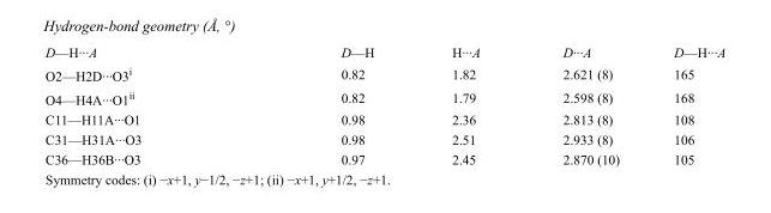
<table><tbody><tr><td>D—H···A</td><td>D—H</td><td>H···A</td><td>D···A</td><td>D—H···A</td></tr><tr><td>O2—H2D···O3<sup>i</sup></td><td>0.82</td><td>1.82</td><td>2.621 (8)</td><td>165</td></tr><tr><td>O4—H4A···O1<sup>ii</sup></td><td>0.82</td><td>1.79</td><td>2.598 (8)</td><td>168</td></tr><tr><td>C11—H11A···O1</td><td>0.98</td><td>2.36</td><td>2.813 (8)</td><td>108</td></tr><tr><td>C31—H31A···O3</td><td>0.98</td><td>2.51</td><td>2.933 (8)</td><td>106</td></tr><tr><td>C36—H36B···O3</td><td>0.97</td><td>2.45</td><td>2.870 (10)</td><td>105</td></tr></tbody></table>